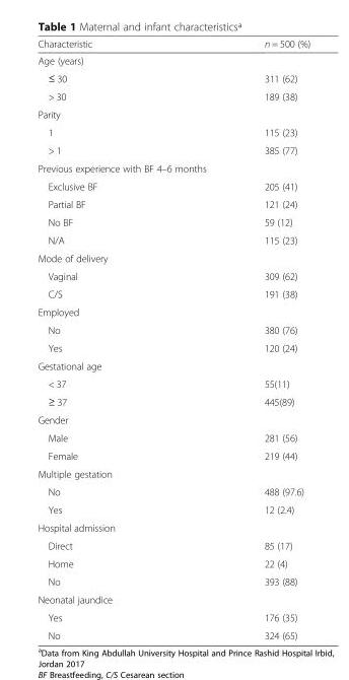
<table><thead><tr><td>Characteristic</td><td>n = 500 (%)</td></tr></thead><tbody><tr><td colspan="2">Age (years)</td></tr><tr><td>≤ 30</td><td>311 (62)</td></tr><tr><td>&gt; 30</td><td>189 (38)</td></tr><tr><td colspan="2">Parity</td></tr><tr><td>1</td><td>115 (23)</td></tr><tr><td>&gt; 1</td><td>385 (77)</td></tr><tr><td colspan="2">Previous experience with BF 4–6 months</td></tr><tr><td>Exclusive BF</td><td>205 (41)</td></tr><tr><td>Partial BF</td><td>121 (24)</td></tr><tr><td>No BF</td><td>59 (12)</td></tr><tr><td>N/A</td><td>115 (23)</td></tr><tr><td colspan="2">Mode of delivery</td></tr><tr><td>Vaginal</td><td>309 (62)</td></tr><tr><td>C/S</td><td>191 (38)</td></tr><tr><td colspan="2">Employed</td></tr><tr><td>No</td><td>380 (76)</td></tr><tr><td>Yes</td><td>120 (24)</td></tr><tr><td colspan="2">Gestational age</td></tr><tr><td>&lt; 37</td><td>55(11)</td></tr><tr><td>≥ 37</td><td>445(89)</td></tr><tr><td colspan="2">Gender</td></tr><tr><td>Male</td><td>281 (56)</td></tr><tr><td>Female</td><td>219 (44)</td></tr><tr><td colspan="2">Multiple gestation</td></tr><tr><td>No</td><td>488 (97.6)</td></tr><tr><td>Yes</td><td>12 (2.4)</td></tr><tr><td colspan="2">Hospital admission</td></tr><tr><td>Direct</td><td>85 (17)</td></tr><tr><td>Home</td><td>22 (4)</td></tr><tr><td>No</td><td>393 (88)</td></tr><tr><td colspan="2">Neonatal jaundice</td></tr><tr><td>Yes</td><td>176 (35)</td></tr><tr><td>No</td><td>324 (65)</td></tr></tbody></table>